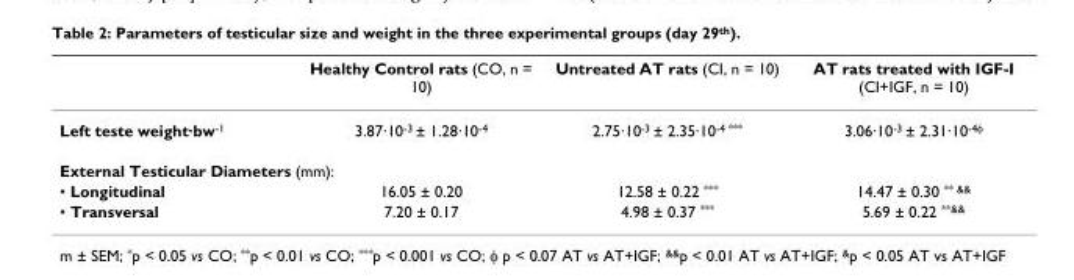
<table><thead><tr><td></td><td>Healthy Control rats (CO, n = 10)</td><td>Untreated AT rats (CI, n = 10)</td><td>AT rats treated with IGF-I (CI+IGF, n = 10)</td></tr></thead><tbody><tr><td>Left teste weight·bw-1</td><td>3.87·10-3 ± 1.28·10-4</td><td>2.75·10-3 ± 2.35·10-4 ***</td><td>3.06·10-3 ± 2.31·10-4φ</td></tr><tr><td colspan="4">External Testicular Diameters (mm):</td></tr><tr><td>• Longitudinal</td><td>16.05 ± 0.20</td><td>12.58 ± 0.22 ***</td><td>14.47 ± 0.30 ** &amp;&amp;</td></tr><tr><td>• Transversal</td><td>7.20 ± 0.17</td><td>4.98 ± 0.37 ***</td><td>5.69 ± 0.22 **&amp;&amp;</td></tr></tbody></table>